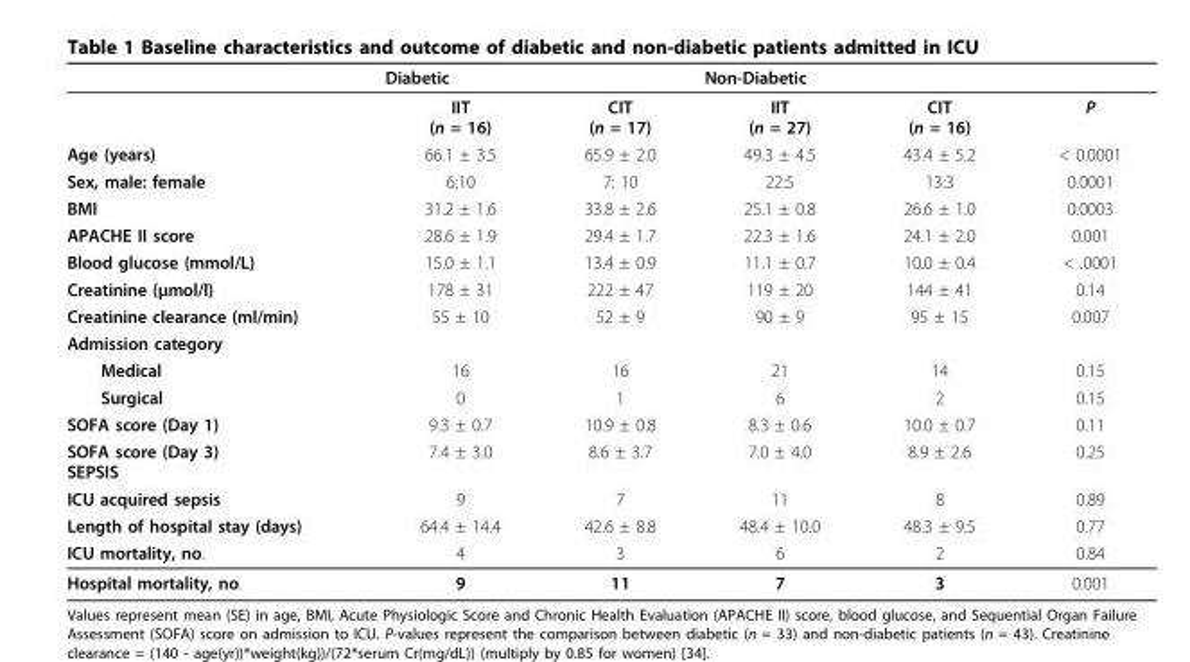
<table><thead><tr><td rowspan="2"></td><td colspan="2">Diabetic</td><td colspan="2">Non-Diabetic</td><td rowspan="2">P</td></tr><tr><td>IIT (n = 16)</td><td>CIT (n = 17)</td><td>IIT (n = 27)</td><td>CIT (n = 16)</td></tr></thead><tbody><tr><td>Age (years)</td><td>66.1 ± 3.5</td><td>65.9 ± 2.0</td><td>49.3 ± 4.5</td><td>43.4 ± 5.2</td><td>&lt; 0.0001</td></tr><tr><td>Sex, male: female</td><td>6:10</td><td>7: 10</td><td>22:5</td><td>13:3</td><td>0.0001</td></tr><tr><td>BMI</td><td>31.2 ± 1.6</td><td>33.8 ± 2.6</td><td>25.1 ± 0.8</td><td>26.6 ± 1.0</td><td>0.0003</td></tr><tr><td>APACHE II score</td><td>28.6 ± 1.9</td><td>29.4 ± 1.7</td><td>22.3 ± 1.6</td><td>24.1 ± 2.0</td><td>0.001</td></tr><tr><td>Blood glucose (mmol/L)</td><td>15.0 ± 1.1</td><td>13.4 ± 0.9</td><td>11.1 ± 0.7</td><td>10.0 ± 0.4</td><td>&lt; .0001</td></tr><tr><td>Creatinine (μmol/l)</td><td>178 ± 31</td><td>222 ± 47</td><td>119 ± 20</td><td>144 ± 41</td><td>0.14</td></tr><tr><td>Creatinine clearance (ml/min)</td><td>55 ± 10</td><td>52 ± 9</td><td>90 ± 9</td><td>95 ± 15</td><td>0.007</td></tr><tr><td colspan="6">Admission category</td></tr><tr><td>Medical</td><td>16</td><td>16</td><td>21</td><td>14</td><td>0.15</td></tr><tr><td>Surgical</td><td>0</td><td>1</td><td>6</td><td>2</td><td>0.15</td></tr><tr><td>SOFA score (Day 1)</td><td>9.3 ± 0.7</td><td>10.9 ± 0.8</td><td>8.3 ± 0.6</td><td>10.0 ± 0.7</td><td>0.11</td></tr><tr><td>SOFA score (Day 3) SEPSIS</td><td>7.4 ± 3.0</td><td>8.6 ± 3.7</td><td>7.0 ± 4.0</td><td>8.9 ± 2.6</td><td>0.25</td></tr><tr><td>ICU acquired sepsis</td><td>9</td><td>7</td><td>11</td><td>8</td><td>0.89</td></tr><tr><td>Length of hospital stay (days)</td><td>64.4 ± 14.4</td><td>42.6 ± 8.8</td><td>48.4 ± 10.0</td><td>48.3 ± 9.5</td><td>0.77</td></tr><tr><td>ICU mortality, no.</td><td>4</td><td>3</td><td>6</td><td>2</td><td>0.84</td></tr><tr><td>Hospital mortality, no.</td><td>9</td><td>11</td><td>7</td><td>3</td><td>0.001</td></tr></tbody></table>